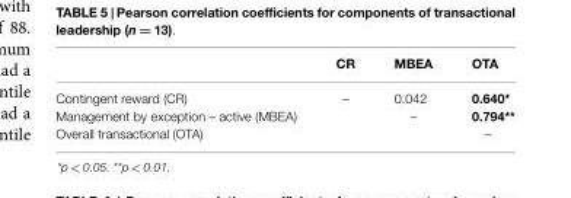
<table><thead><tr><td></td><td>CR</td><td>MBEA</td><td>OTA</td></tr></thead><tbody><tr><td>Contingent reward (CR)</td><td>–</td><td>0.042</td><td>0.640*</td></tr><tr><td>Management by exception – active (MBEA)</td><td></td><td>–</td><td>0.794**</td></tr><tr><td>Overall transactional (OTA)</td><td></td><td></td><td>–</td></tr></tbody></table>